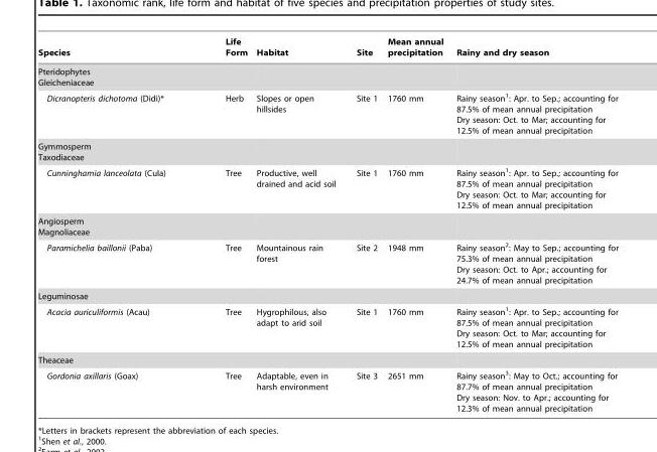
<table><thead><tr><td>Species</td><td>Life Form</td><td>Habitat</td><td>Site</td><td>Mean annual precipitation</td><td>Rainy and dry season</td></tr></thead><tbody><tr><td colspan="6">Pteridophytes Gleicheniaceae</td></tr><tr><td>Dicranopteris dichotoma (Didi)*</td><td>Herb</td><td>Slopes or open hillsides</td><td>Site 1</td><td>1760 mm</td><td>Rainy season<sup>1</sup>: Apr. to Sep.; accounting for 87.5% of mean annual precipitation Dry season: Oct. to Mar; accounting for 12.5% of mean annual precipitation</td></tr><tr><td colspan="6">Gymmosperm Taxodiaceae</td></tr><tr><td>Cunninghamia lanceolata (Cula)</td><td>Tree</td><td>Productive, well drained and acid soil</td><td>Site 1</td><td>1760 mm</td><td>Rainy season<sup>1</sup>: Apr. to Sep.; accounting for 87.5% of mean annual precipitation Dry season: Oct. to Mar; accounting for 12.5% of mean annual precipitation</td></tr><tr><td colspan="6">Angiosperm Magnoliaceae</td></tr><tr><td>Paramichelia baillonii (Paba)</td><td>Tree</td><td>Mountainous rain forest</td><td>Site 2</td><td>1948 mm</td><td>Rainy season<sup>2</sup>: May to Sep.; accounting for 75.3% of mean annual precipitation Dry season: Oct. to Apr.; accounting for 24.7% of mean annual precipitation</td></tr><tr><td colspan="6">Leguminosae</td></tr><tr><td>Acacia auriculiformis (Acau)</td><td>Tree</td><td>Hygrophilous, also adapt to arid soil</td><td>Site 1</td><td>1760 mm</td><td>Rainy season<sup>1</sup>: Apr. to Sep.; accounting for 87.5% of mean annual precipitation Dry season: Oct. to Mar; accounting for 12.5% of mean annual precipitation</td></tr><tr><td colspan="6">Theaceae</td></tr><tr><td>Gordonia axillaris (Goax)</td><td>Tree</td><td>Adaptable, even in harsh environment</td><td>Site 3</td><td>2651 mm</td><td>Rainy season<sup>3</sup>: May to Oct.; accounting for 87.7% of mean annual precipitation Dry season: Nov. to Apr.; accounting for 12.3% of mean annual precipitation</td></tr></tbody></table>